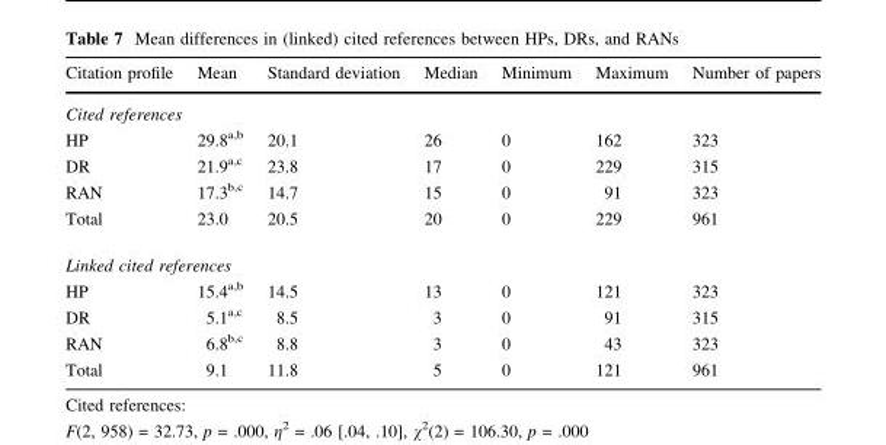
<table><thead><tr><td>Citation profile</td><td>Mean</td><td>Standard deviation</td><td>Median</td><td>Minimum</td><td>Maximum</td><td>Number of papers</td></tr></thead><tbody><tr><td colspan="7">Cited references</td></tr><tr><td>HP</td><td>29.8<sup>a,b</sup></td><td>20.1</td><td>26</td><td>0</td><td>162</td><td>323</td></tr><tr><td>DR</td><td>21.9<sup>a,c</sup></td><td>23.8</td><td>17</td><td>0</td><td>229</td><td>315</td></tr><tr><td>RAN</td><td>17.3<sup>b,c</sup></td><td>14.7</td><td>15</td><td>0</td><td>91</td><td>323</td></tr><tr><td>Total</td><td>23.0</td><td>20.5</td><td>20</td><td>0</td><td>229</td><td>961</td></tr><tr><td colspan="7">Linked cited references</td></tr><tr><td>HP</td><td>15.4<sup>a,b</sup></td><td>14.5</td><td>13</td><td>0</td><td>121</td><td>323</td></tr><tr><td>DR</td><td>5.1<sup>a,c</sup></td><td>8.5</td><td>3</td><td>0</td><td>91</td><td>315</td></tr><tr><td>RAN</td><td>6.8<sup>b,c</sup></td><td>8.8</td><td>3</td><td>0</td><td>43</td><td>323</td></tr><tr><td>Total</td><td>9.1</td><td>11.8</td><td>5</td><td>0</td><td>121</td><td>961</td></tr></tbody></table>